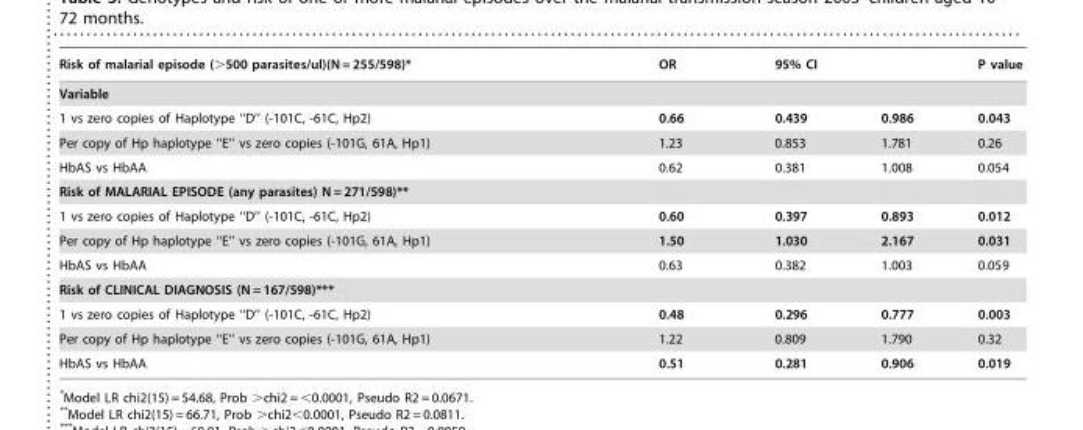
<table><thead><tr><td>Risk of malarial episode (&gt;500 parasites/ul)(N = 255/598)*</td><td>OR</td><td colspan="2">95% CI</td><td>P value</td></tr><tr><td colspan="5">Variable</td></tr><tr><td>1 vs zero copies of Haplotype ‘‘D’’ (-101C, -61C, Hp2)</td><td>0.66</td><td>0.439</td><td>0.986</td><td>0.043</td></tr></thead><tbody><tr><td>Per copy of Hp haplotype ‘‘E’’ vs zero copies (-101G, 61A, Hp1)</td><td>1.23</td><td>0.853</td><td>1.781</td><td>0.26</td></tr><tr><td>HbAS vs HbAA</td><td>0.62</td><td>0.381</td><td>1.008</td><td>0.054</td></tr><tr><td colspan="5">Risk of MALARIAL EPISODE (any parasites) N = 271/598)**</td></tr><tr><td>1 vs zero copies of Haplotype ‘‘D’’ (-101C, -61C, Hp2)</td><td>0.60</td><td>0.397</td><td>0.893</td><td>0.012</td></tr><tr><td>Per copy of Hp haplotype ‘‘E’’ vs zero copies (-101G, 61A, Hp1)</td><td>1.50</td><td>1.030</td><td>2.167</td><td>0.031</td></tr><tr><td>HbAS vs HbAA</td><td>0.63</td><td>0.382</td><td>1.003</td><td>0.059</td></tr><tr><td colspan="5">Risk of CLINICAL DIAGNOSIS (N = 167/598)***</td></tr><tr><td>1 vs zero copies of Haplotype ‘‘D’’ (-101C, -61C, Hp2)</td><td>0.48</td><td>0.296</td><td>0.777</td><td>0.003</td></tr><tr><td>Per copy of Hp haplotype ‘‘E’’ vs zero copies (-101G, 61A, Hp1)</td><td>1.22</td><td>0.809</td><td>1.790</td><td>0.32</td></tr><tr><td>HbAS vs HbAA</td><td>0.51</td><td>0.281</td><td>0.906</td><td>0.019</td></tr></tbody></table>